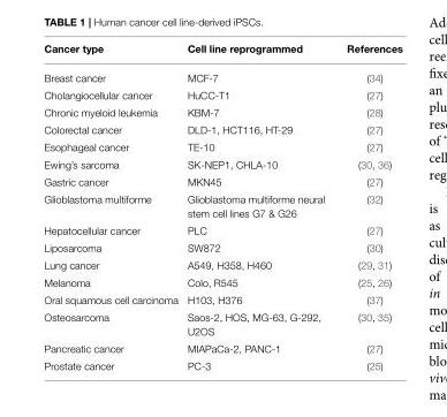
<table><thead><tr><td>Cancer type</td><td>Cell line reprogrammed</td><td>References</td></tr></thead><tbody><tr><td>Breast cancer</td><td>MCF-7</td><td>(34)</td></tr><tr><td>Cholangiocellular cancer</td><td>HuCC-T1</td><td>(27)</td></tr><tr><td>Chronic myeloid leukemia</td><td>KBM-7</td><td>(28)</td></tr><tr><td>Colorectal cancer</td><td>DLD-1, HCT116, HT-29</td><td>(27)</td></tr><tr><td>Esophageal cancer</td><td>TE-10</td><td>(27)</td></tr><tr><td>Ewing’s sarcoma</td><td>SK-NEP1, CHLA-10</td><td>(30, 36)</td></tr><tr><td>Gastric cancer</td><td>MKN45</td><td>(27)</td></tr><tr><td>Glioblastoma multiforme</td><td>Glioblastoma multiforme neural stem cell lines G7 &amp; G26</td><td>(32)</td></tr><tr><td>Hepatocellular cancer</td><td>PLC</td><td>(27)</td></tr><tr><td>Liposarcoma</td><td>SW872</td><td>(30)</td></tr><tr><td>Lung cancer</td><td>A549, H358, H460</td><td>(29, 31)</td></tr><tr><td>Melanoma</td><td>Colo, R545</td><td>(25, 26)</td></tr><tr><td>Oral squamous cell carcinoma</td><td>H103, H376</td><td>(37)</td></tr><tr><td>Osteosarcoma</td><td>Saos-2, HOS, MG-63, G-292, U2OS</td><td>(30, 35)</td></tr><tr><td>Pancreatic cancer</td><td>MIAPaCa-2, PANC-1</td><td>(27)</td></tr><tr><td>Prostate cancer</td><td>PC-3</td><td>(25)</td></tr></tbody></table>